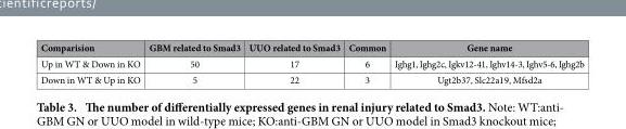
<table><thead><tr><td>Comparision</td><td>GBM related to Smad3</td><td>UUO related to Smad3</td><td>Common</td><td>Gene name</td></tr></thead><tbody><tr><td>Up in WT &amp; Down in KO</td><td>50</td><td>17</td><td>6</td><td>Ighg1, Ighg2c, Igkv12-41, Ighv14-3, Ighv5-6, Ighg2b</td></tr><tr><td>Down in WT &amp; Up in KO</td><td>5</td><td>22</td><td>3</td><td>Ugt2b37, Slc22a19, Mfsd2a</td></tr></tbody></table>